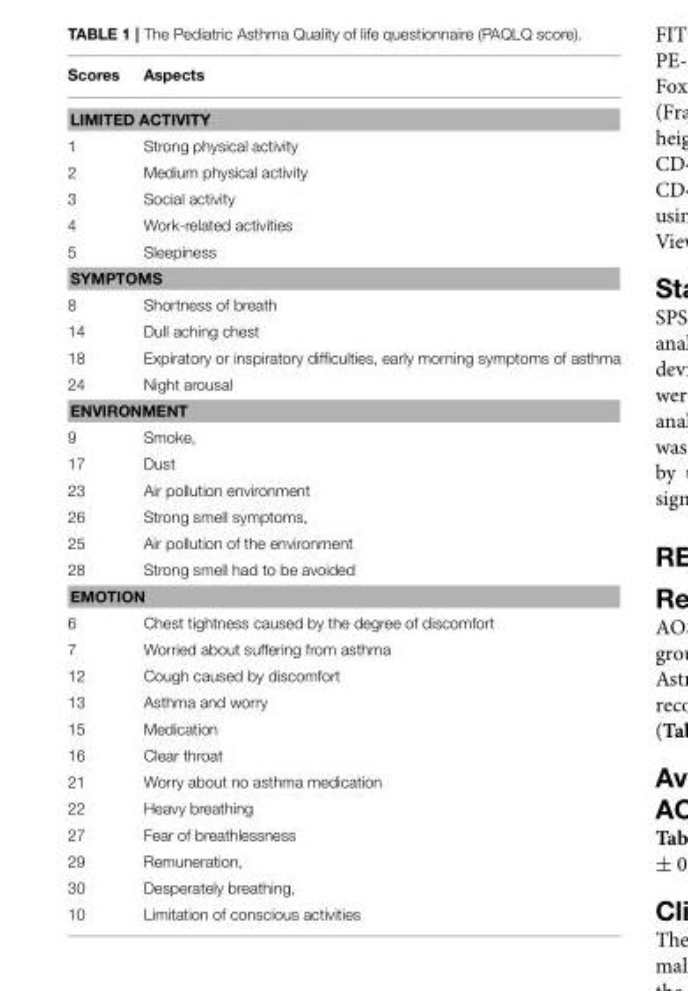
<table><thead><tr><td>Scores</td><td>Aspects</td></tr></thead><tbody><tr><td colspan="2">LIMITED ACTIVITY</td></tr><tr><td>1</td><td>Strong physical activity</td></tr><tr><td>2</td><td>Medium physical activity</td></tr><tr><td>3</td><td>Social activity</td></tr><tr><td>4</td><td>Work-related activities</td></tr><tr><td>5</td><td>Sleepiness</td></tr><tr><td colspan="2">SYMPTOMS</td></tr><tr><td>8</td><td>Shortness of breath</td></tr><tr><td>14</td><td>Dull aching chest</td></tr><tr><td>18</td><td>Expiratory or inspiratory difficulties, early morning symptoms of asthma</td></tr><tr><td>24</td><td>Night arousal</td></tr><tr><td colspan="2">ENVIRONMENT</td></tr><tr><td>9</td><td>Smoke,</td></tr><tr><td>17</td><td>Dust</td></tr><tr><td>23</td><td>Air pollution environment</td></tr><tr><td>26</td><td>Strong smell symptoms,</td></tr><tr><td>25</td><td>Air pollution of the environment</td></tr><tr><td>28</td><td>Strong smell had to be avoided</td></tr><tr><td colspan="2">EMOTION</td></tr><tr><td>6</td><td>Chest tightness caused by the degree of discomfort</td></tr><tr><td>7</td><td>Worried about suffering from asthma</td></tr><tr><td>12</td><td>Cough caused by discomfort</td></tr><tr><td>13</td><td>Asthma and worry</td></tr><tr><td>15</td><td>Medication</td></tr><tr><td>16</td><td>Clear throat</td></tr><tr><td>21</td><td>Worry about no asthma medication</td></tr><tr><td>22</td><td>Heavy breathing</td></tr><tr><td>27</td><td>Fear of breathlessness</td></tr><tr><td>29</td><td>Remuneration,</td></tr><tr><td>30</td><td>Desperately breathing,</td></tr><tr><td>10</td><td>Limitation of conscious activities</td></tr></tbody></table>